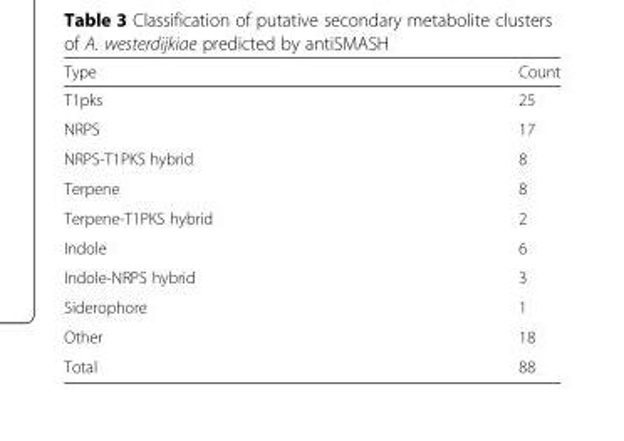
<table><thead><tr><td>Type</td><td>Count</td></tr></thead><tbody><tr><td>T1pks</td><td>25</td></tr><tr><td>NRPS</td><td>17</td></tr><tr><td>NRPS-T1PKS hybrid</td><td>8</td></tr><tr><td>Terpene</td><td>8</td></tr><tr><td>Terpene-T1PKS hybrid</td><td>2</td></tr><tr><td>Indole</td><td>6</td></tr><tr><td>Indole-NRPS hybrid</td><td>3</td></tr><tr><td>Siderophore</td><td>1</td></tr><tr><td>Other</td><td>18</td></tr><tr><td>Total</td><td>88</td></tr></tbody></table>